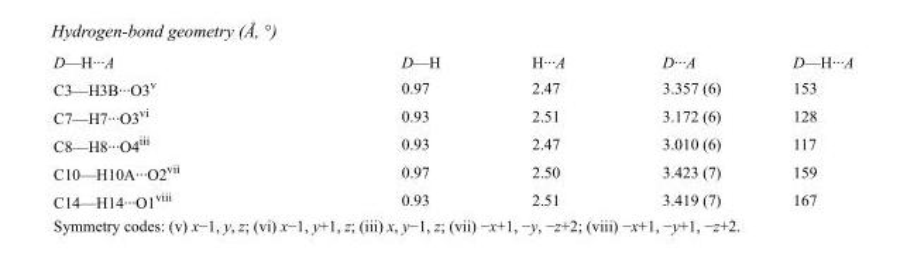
<table><tbody><tr><td>D—H···A</td><td>D—H</td><td>H···A</td><td>D···A</td><td>D—H···A</td></tr><tr><td>C3—H3B···O3<sup>v</sup></td><td>0.97</td><td>2.47</td><td>3.357 (6)</td><td>153</td></tr><tr><td>C7—H7···O3<sup>vi</sup></td><td>0.93</td><td>2.51</td><td>3.172 (6)</td><td>128</td></tr><tr><td>C8—H8···O4<sup>iii</sup></td><td>0.93</td><td>2.47</td><td>3.010 (6)</td><td>117</td></tr><tr><td>C10—H10A···O2<sup>vii</sup></td><td>0.97</td><td>2.50</td><td>3.423 (7)</td><td>159</td></tr><tr><td>C14—H14···O1<sup>viii</sup></td><td>0.93</td><td>2.51</td><td>3.419 (7)</td><td>167</td></tr></tbody></table>